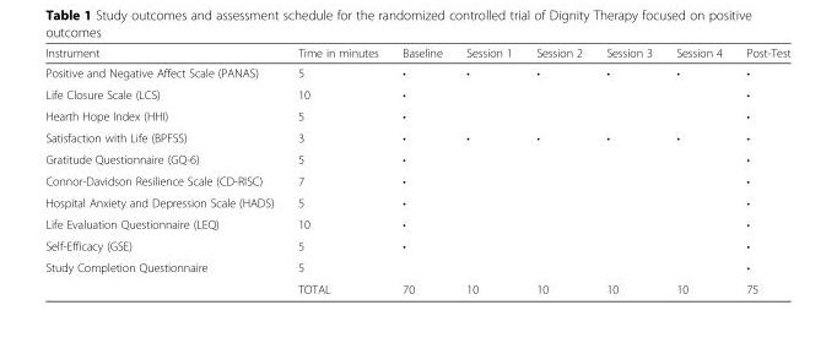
<table><thead><tr><td>Instrument</td><td>Time in minutes</td><td>Baseline</td><td>Session 1</td><td>Session 2</td><td>Session 3</td><td>Session 4</td><td>Post-Test</td></tr></thead><tbody><tr><td>Positive and Negative Affect Scale (PANAS)</td><td>5</td><td>•</td><td>•</td><td>•</td><td>•</td><td>•</td><td>•</td></tr><tr><td>Life Closure Scale (LCS)</td><td>10</td><td>•</td><td></td><td></td><td></td><td></td><td>•</td></tr><tr><td>Hearth Hope Index (HHI)</td><td>5</td><td>•</td><td></td><td></td><td></td><td></td><td>•</td></tr><tr><td>Satisfaction with Life (BPFSS)</td><td>3</td><td>•</td><td>•</td><td>•</td><td>•</td><td>•</td><td>•</td></tr><tr><td>Gratitude Questionnaire (GQ-6)</td><td>5</td><td>•</td><td></td><td></td><td></td><td></td><td>•</td></tr><tr><td>Connor-Davidson Resilience Scale (CD-RISC)</td><td>7</td><td>•</td><td></td><td></td><td></td><td></td><td>•</td></tr><tr><td>Hospital Anxiety and Depression Scale (HADS)</td><td>5</td><td>•</td><td></td><td></td><td></td><td></td><td>•</td></tr><tr><td>Life Evaluation Questionnaire (LEQ)</td><td>10</td><td>•</td><td></td><td></td><td></td><td></td><td>•</td></tr><tr><td>Self-Efficacy (GSE)</td><td>5</td><td>•</td><td></td><td></td><td></td><td></td><td>•</td></tr><tr><td rowspan="2">Study Completion Questionnaire</td><td>5</td><td></td><td></td><td></td><td></td><td></td><td>•</td></tr><tr><td>TOTAL</td><td>70</td><td>10</td><td>10</td><td>10</td><td>10</td><td>75</td></tr></tbody></table>